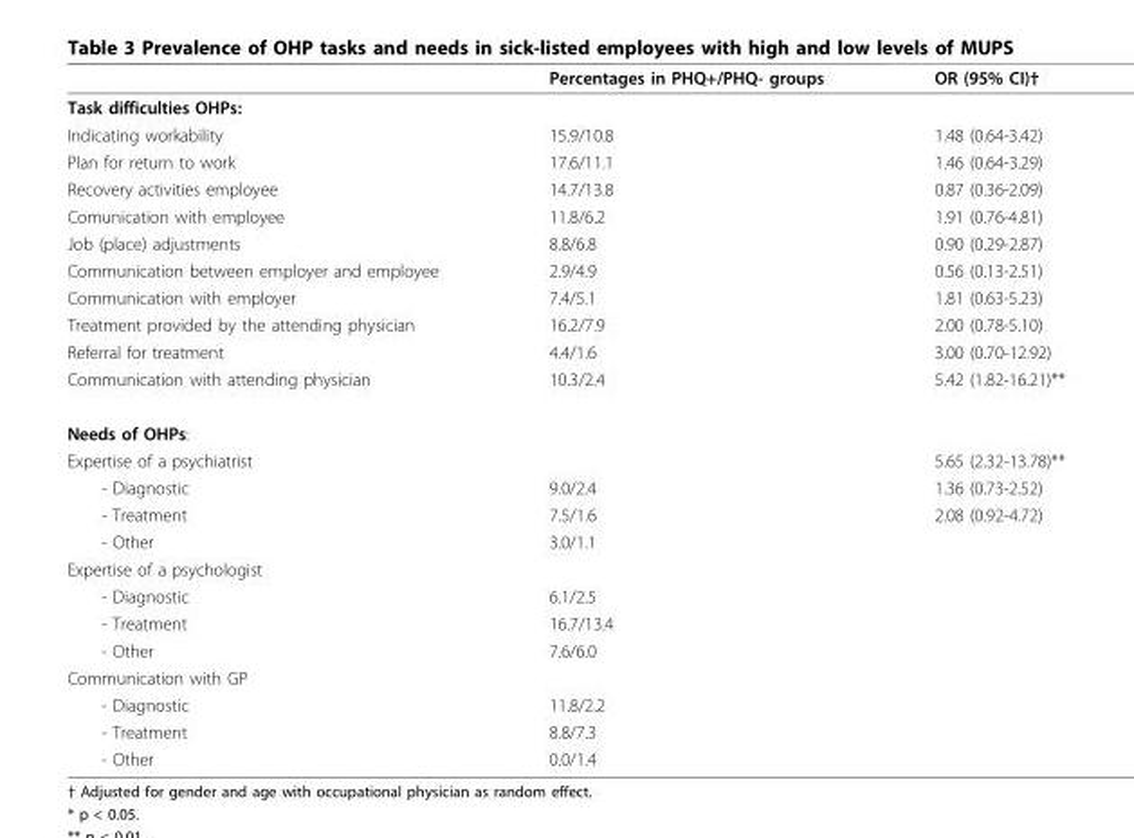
<table><thead><tr><td></td><td>Percentages in PHQ+/PHQ- groups</td><td>OR (95% CI)†</td></tr></thead><tbody><tr><td colspan="3">Task difficulties OHPs:</td></tr><tr><td>Indicating workability</td><td>15.9/10.8</td><td>1.48 (0.64-3.42)</td></tr><tr><td>Plan for return to work</td><td>17.6/11.1</td><td>1.46 (0.64-3.29)</td></tr><tr><td>Recovery activities employee</td><td>14.7/13.8</td><td>0.87 (0.36-2.09)</td></tr><tr><td>Comunication with employee</td><td>11.8/6.2</td><td>1.91 (0.76-4.81)</td></tr><tr><td>Job (place) adjustments</td><td>8.8/6.8</td><td>0.90 (0.29-2.87)</td></tr><tr><td>Communication between employer and employee</td><td>2.9/4.9</td><td>0.56 (0.13-2.51)</td></tr><tr><td>Communication with employer</td><td>7.4/5.1</td><td>1.81 (0.63-5.23)</td></tr><tr><td>Treatment provided by the attending physician</td><td>16.2/7.9</td><td>2.00 (0.78-5.10)</td></tr><tr><td>Referral for treatment</td><td>4.4/1.6</td><td>3.00 (0.70-12.92)</td></tr><tr><td>Communication with attending physician</td><td>10.3/2.4</td><td>5.42 (1.82-16.21)**</td></tr><tr><td colspan="3">Needs of OHPs:</td></tr><tr><td>Expertise of a psychiatrist</td><td></td><td>5.65 (2.32-13.78)**</td></tr><tr><td>- Diagnostic</td><td>9.0/2.4</td><td>1.36 (0.73-2.52)</td></tr><tr><td>- Treatment</td><td>7.5/1.6</td><td>2.08 (0.92-4.72)</td></tr><tr><td>- Other</td><td>3.0/1.1</td><td></td></tr><tr><td colspan="3">Expertise of a psychologist</td></tr><tr><td>- Diagnostic</td><td>6.1/2.5</td><td></td></tr><tr><td>- Treatment</td><td>16.7/13.4</td><td></td></tr><tr><td>- Other</td><td>7.6/6.0</td><td></td></tr><tr><td colspan="3">Communication with GP</td></tr><tr><td>- Diagnostic</td><td>11.8/2.2</td><td></td></tr><tr><td>- Treatment</td><td>8.8/7.3</td><td></td></tr><tr><td>- Other</td><td>0.0/1.4</td><td></td></tr></tbody></table>